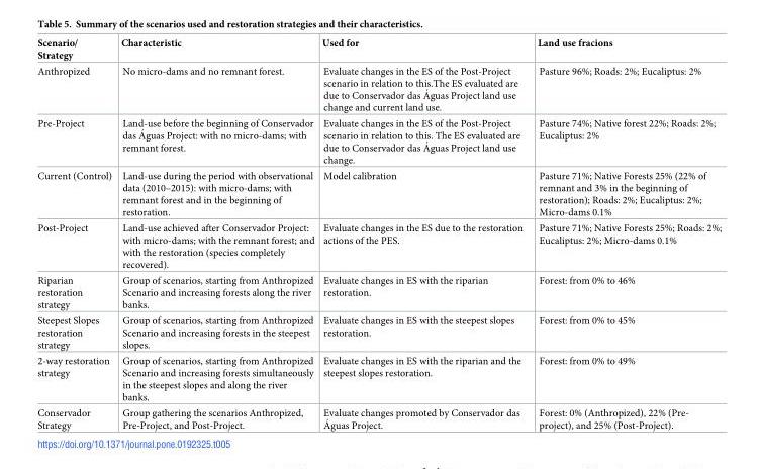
<table><thead><tr><td>Scenario/ Strategy</td><td>Characteristic</td><td>Used for</td><td>Land use fracions</td></tr></thead><tbody><tr><td>Anthropized</td><td>No micro-dams and no remnant forest.</td><td>Evaluate changes in the ES of the Post-Project scenario in relation to this.The ES evaluated are due to Conservador das A´ guas Project land use change and current land use.</td><td>Pasture 96%; Roads: 2%; Eucaliptus: 2%</td></tr><tr><td>Pre-Project</td><td>Land-use before the beginning of Conservador das A´guas Project: with no micro-dams; with remnant forest.</td><td>Evaluate changes in the ES of the Post-Project scenario in relation to this. The ES evaluated are due to Conservador das A´ guas Project land use change.</td><td>Pasture 74%; Native forest 22%; Roads: 2%; Eucaliptus: 2%</td></tr><tr><td>Current (Control)</td><td>Land-use during the period with observational data (2010–2015): with micro-dams; with remnant forest and in the beginning of restoration.</td><td>Model calibration</td><td>Pasture 71%; Native Forests 25% (22% of remnant and 3% in the beginning of restoration); Roads: 2%; Eucaliptus: 2%; Micro-dams 0.1%</td></tr><tr><td>Post-Project</td><td>Land-use achieved after Conservador Project: with micro-dams; with the remnant forest; and with the restoration (species completely recovered).</td><td>Evaluate changes in the ES due to the restoration actions of the PES.</td><td>Pasture 71%; Native Forests 25%; Roads: 2%; Eucaliptus: 2%; Micro-dams 0.1%</td></tr><tr><td>Riparian restoration strategy</td><td>Group of scenarios, starting from Anthropized Scenario and increasing forests along the river banks.</td><td>Evaluate changes in ES with the riparian restoration.</td><td>Forest: from 0% to 46%</td></tr><tr><td>Steepest Slopes restoration strategy</td><td>Group of scenarios, starting from Anthropized Scenario and increasing forests in the steepest slopes.</td><td>Evaluate changes in ES with the steepest slopes restoration.</td><td>Forest: from 0% to 45%</td></tr><tr><td>2-way restoration strategy</td><td>Group of scenarios, starting from Anthropized Scenario and increasing forests simultaneously in the steepest slopes and along the river banks.</td><td>Evaluate changes in ES with the riparian and the steepest slopes restoration.</td><td>Forest: from 0% to 49%</td></tr><tr><td>Conservador Strategy</td><td>Group gathering the scenarios Anthropized, Pre-Project, and Post-Project.</td><td>Evaluate changes promoted by Conservador das A´guas Project.</td><td>Forest: 0% (Anthropized), 22% (Pre- project), and 25% (Post-Project).</td></tr></tbody></table>